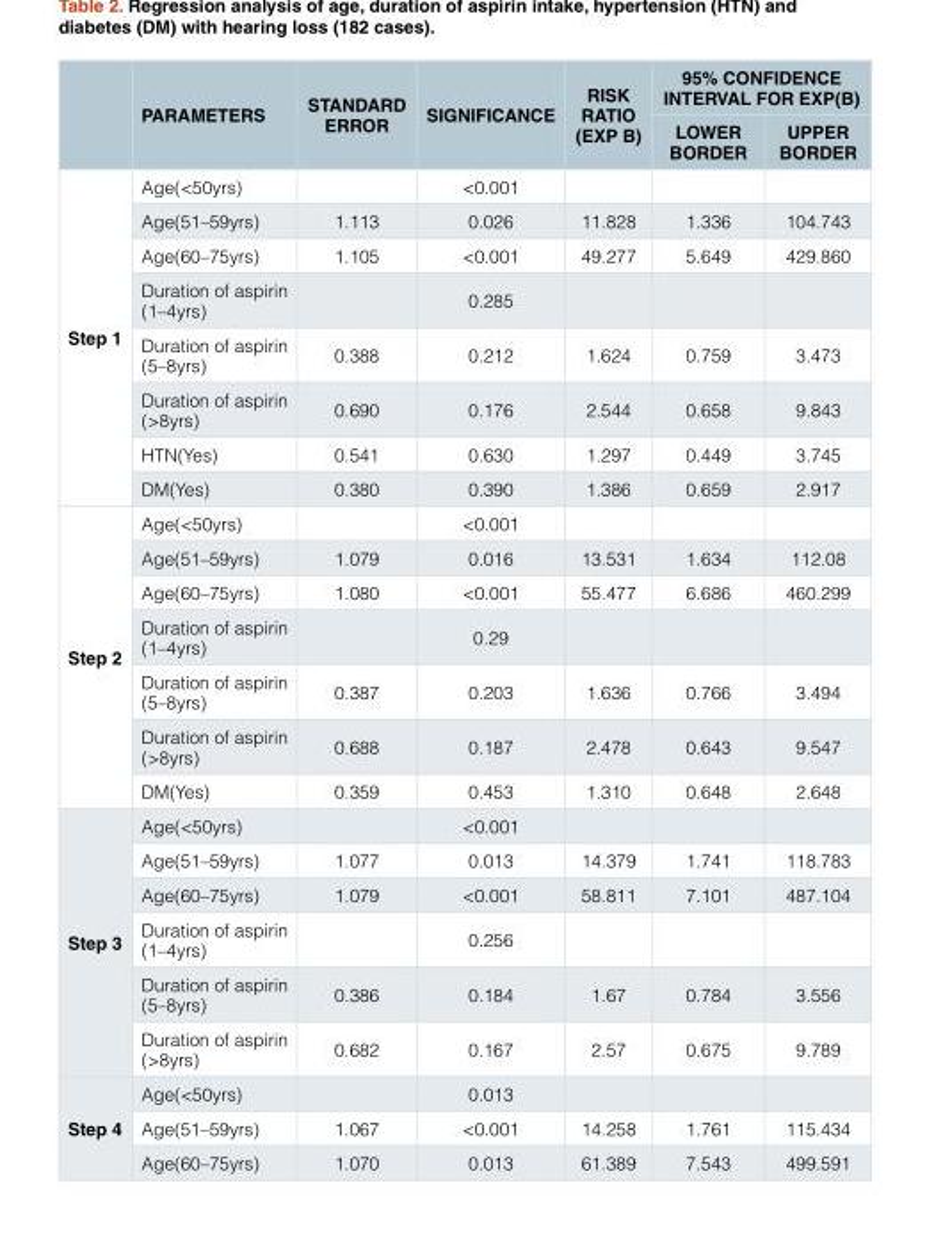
<table><thead><tr><td rowspan="2"></td><td rowspan="2">PARAMETERS</td><td rowspan="2">STANDARD ERROR</td><td rowspan="2">SIGNIFICANCE</td><td rowspan="2">RISK RATIO (EXP B)</td><td colspan="2">95% CONFIDENCE INTERVAL FOR EXP(B)</td></tr><tr><td>LOWER BORDER</td><td>UPPER BORDER</td></tr></thead><tbody><tr><td rowspan="8">Step 1</td><td>Age(&lt;50yrs)</td><td></td><td>&lt;0.001</td><td></td><td></td><td></td></tr><tr><td>Age(51–59yrs)</td><td>1.113</td><td>0.026</td><td>11.828</td><td>1.336</td><td>104.743</td></tr><tr><td>Age(60–75yrs)</td><td>1.105</td><td>&lt;0.001</td><td>49.277</td><td>5.649</td><td>429.860</td></tr><tr><td>Duration of aspirin (1–4yrs)</td><td></td><td>0.285</td><td></td><td></td><td></td></tr><tr><td>Duration of aspirin (5–8yrs)</td><td>0.388</td><td>0.212</td><td>1.624</td><td>0.759</td><td>3.473</td></tr><tr><td>Duration of aspirin (&gt;8yrs)</td><td>0.690</td><td>0.176</td><td>2.544</td><td>0.658</td><td>9.843</td></tr><tr><td>HTN(Yes)</td><td>0.541</td><td>0.630</td><td>1.297</td><td>0.449</td><td>3.745</td></tr><tr><td>DM(Yes)</td><td>0.380</td><td>0.390</td><td>1.386</td><td>0.659</td><td>2.917</td></tr><tr><td rowspan="7">Step 2</td><td>Age(&lt;50yrs)</td><td></td><td>&lt;0.001</td><td></td><td></td><td></td></tr><tr><td>Age(51–59yrs)</td><td>1.079</td><td>0.016</td><td>13.531</td><td>1.634</td><td>112.08</td></tr><tr><td>Age(60–75yrs)</td><td>1.080</td><td>&lt;0.001</td><td>55.477</td><td>6.686</td><td>460.299</td></tr><tr><td>Duration of aspirin (1–4yrs)</td><td></td><td>0.29</td><td></td><td></td><td></td></tr><tr><td>Duration of aspirin (5–8yrs)</td><td>0.387</td><td>0.203</td><td>1.636</td><td>0.766</td><td>3.494</td></tr><tr><td>Duration of aspirin (&gt;8yrs)</td><td>0.688</td><td>0.187</td><td>2.478</td><td>0.643</td><td>9.547</td></tr><tr><td>DM(Yes)</td><td>0.359</td><td>0.453</td><td>1.310</td><td>0.648</td><td>2.648</td></tr><tr><td rowspan="6">Step 3</td><td>Age(&lt;50yrs)</td><td></td><td>&lt;0.001</td><td></td><td></td><td></td></tr><tr><td>Age(51–59yrs)</td><td>1.077</td><td>0.013</td><td>14.379</td><td>1.741</td><td>118.783</td></tr><tr><td>Age(60–75yrs)</td><td>1.079</td><td>&lt;0.001</td><td>58.811</td><td>7.101</td><td>487.104</td></tr><tr><td>Duration of aspirin (1–4yrs)</td><td></td><td>0.256</td><td></td><td></td><td></td></tr><tr><td>Duration of aspirin (5–8yrs)</td><td>0.386</td><td>0.184</td><td>1.67</td><td>0.784</td><td>3.556</td></tr><tr><td>Duration of aspirin (&gt;8yrs)</td><td>0.682</td><td>0.167</td><td>2.57</td><td>0.675</td><td>9.789</td></tr><tr><td rowspan="3">Step 4</td><td>Age(&lt;50yrs)</td><td></td><td>0.013</td><td></td><td></td><td></td></tr><tr><td>Age(51–59yrs)</td><td>1.067</td><td>&lt;0.001</td><td>14.258</td><td>1.761</td><td>115.434</td></tr><tr><td>Age(60–75yrs)</td><td>1.070</td><td>0.013</td><td>61.389</td><td>7.543</td><td>499.591</td></tr></tbody></table>